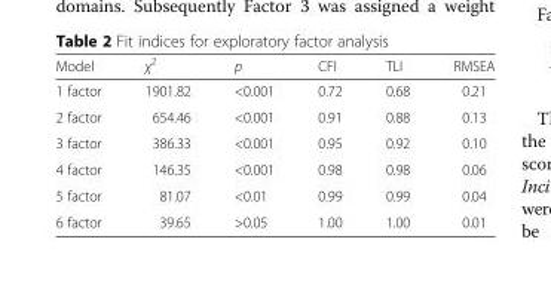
<table><thead><tr><td>Model</td><td>χ<sup>2</sup></td><td>p</td><td>CFI</td><td>TLI</td><td>RMSEA</td></tr></thead><tbody><tr><td>1 factor</td><td>1901.82</td><td>&lt;0.001</td><td>0.72</td><td>0.68</td><td>0.21</td></tr><tr><td>2 factor</td><td>654.46</td><td>&lt;0.001</td><td>0.91</td><td>0.88</td><td>0.13</td></tr><tr><td>3 factor</td><td>386.33</td><td>&lt;0.001</td><td>0.95</td><td>0.92</td><td>0.10</td></tr><tr><td>4 factor</td><td>146.35</td><td>&lt;0.001</td><td>0.98</td><td>0.98</td><td>0.06</td></tr><tr><td>5 factor</td><td>81.07</td><td>&lt;0.01</td><td>0.99</td><td>0.99</td><td>0.04</td></tr><tr><td>6 factor</td><td>39.65</td><td>&gt;0.05</td><td>1.00</td><td>1.00</td><td>0.01</td></tr></tbody></table>